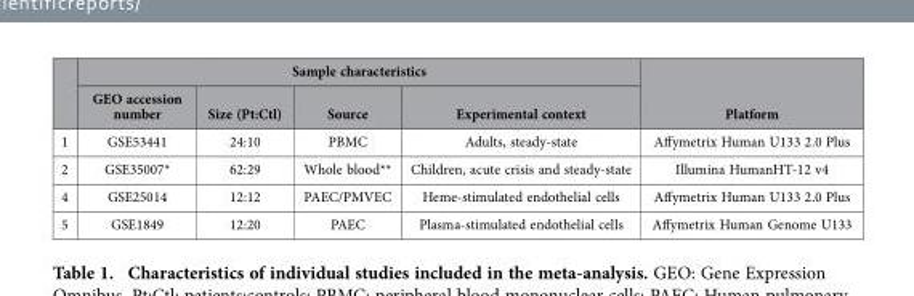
<table><thead><tr><td rowspan="2"></td><td colspan="4">Sample characteristics</td><td rowspan="2">Platform</td></tr><tr><td>GEO accession number</td><td>Size (Pt:Ctl)</td><td>Source</td><td>Experimental context</td></tr></thead><tbody><tr><td>1</td><td>GSE53441</td><td>24:10</td><td>PBMC</td><td>Adults, steady-state</td><td>Affymetrix Human U133 2.0 Plus</td></tr><tr><td>2</td><td>GSE35007*</td><td>62:29</td><td>Whole blood**</td><td>Children, acute crisis and steady-state</td><td>Illumina HumanHT-12 v4</td></tr><tr><td>4</td><td>GSE25014</td><td>12:12</td><td>PAEC/PMVEC</td><td>Heme-stimulated endothelial cells</td><td>Affymetrix Human U133 2.0 Plus</td></tr><tr><td>5</td><td>GSE1849</td><td>12:20</td><td>PAEC</td><td>Plasma-stimulated endothelial cells</td><td>Affymetrix Human Genome U133</td></tr></tbody></table>